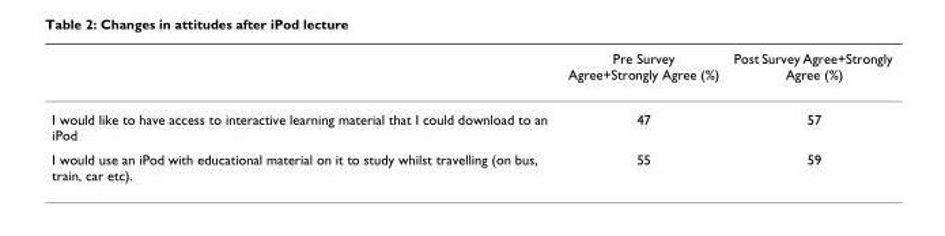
<table><thead><tr><td></td><td>Pre Survey Agree+Strongly Agree (%)</td><td>Post Survey Agree+Strongly Agree (%)</td></tr></thead><tbody><tr><td>I would like to have access to interactive learning material that I could download to an iPod</td><td>47</td><td>57</td></tr><tr><td>I would use an iPod with educational material on it to study whilst travelling (on bus, train, car etc).</td><td>55</td><td>59</td></tr></tbody></table>